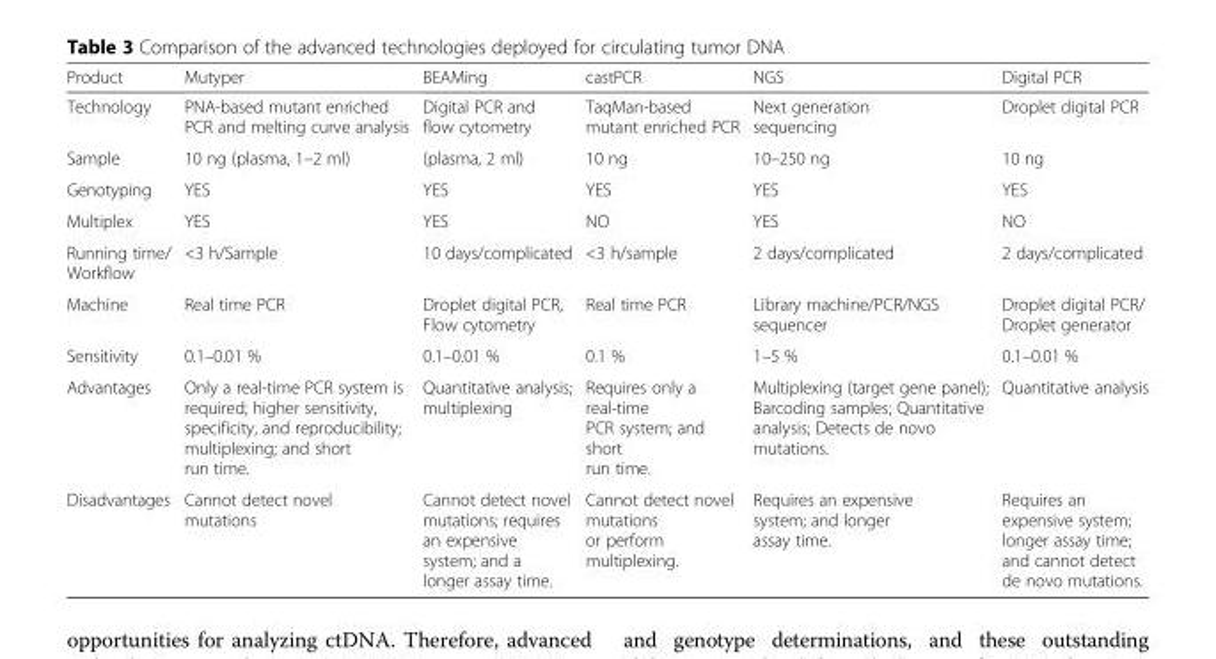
<table><thead><tr><td>Product</td><td>Mutyper</td><td>BEAMing</td><td>castPCR</td><td>NGS</td><td>Digital PCR</td></tr></thead><tbody><tr><td>Technology</td><td>PNA-based mutant enriched PCR and melting curve analysis</td><td>Digital PCR and flow cytometry</td><td>TaqMan-based mutant enriched PCR</td><td>Next generation sequencing</td><td>Droplet digital PCR</td></tr><tr><td>Sample</td><td>10 ng (plasma, 1–2 ml)</td><td>(plasma, 2 ml)</td><td>10 ng</td><td>10–250 ng</td><td>10 ng</td></tr><tr><td>Genotyping</td><td>YES</td><td>YES</td><td>YES</td><td>YES</td><td>YES</td></tr><tr><td>Multiplex</td><td>YES</td><td>YES</td><td>NO</td><td>YES</td><td>NO</td></tr><tr><td>Running time/ Workflow</td><td>&lt;3 h/Sample</td><td>10 days/complicated</td><td>&lt;3 h/sample</td><td>2 days/complicated</td><td>2 days/complicated</td></tr><tr><td>Machine</td><td>Real time PCR</td><td>Droplet digital PCR, Flow cytometry</td><td>Real time PCR</td><td>Library machine/PCR/NGS sequencer</td><td>Droplet digital PCR/ Droplet generator</td></tr><tr><td>Sensitivity</td><td>0.1–0.01 %</td><td>0.1–0.01 %</td><td>0.1 %</td><td>1–5 %</td><td>0.1–0.01 %</td></tr><tr><td>Advantages</td><td>Only a real-time PCR system is required; higher sensitivity, specificity, and reproducibility; multiplexing; and short run time.</td><td>Quantitative analysis; multiplexing</td><td>Requires only a real-time PCR system; and short run time.</td><td>Multiplexing (target gene panel); Barcoding samples; Quantitative analysis; Detects de novo mutations.</td><td>Quantitative analysis</td></tr><tr><td>Disadvantages</td><td>Cannot detect novel mutations</td><td>Cannot detect novel mutations; requires an expensive system; and a longer assay time.</td><td>Cannot detect novel mutations or perform multiplexing.</td><td>Requires an expensive system; and longer assay time.</td><td>Requires an expensive system; longer assay time; and cannot detect de novo mutations.</td></tr></tbody></table>